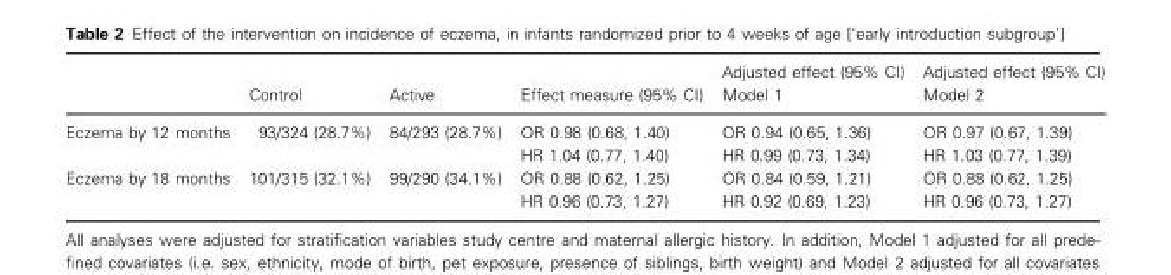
<table><thead><tr><td></td><td>Control</td><td>Active</td><td>Effect measure (95% CI)</td><td>Adjusted effect (95% CI) Model 1</td><td>Adjusted effect (95% CI) Model 2</td></tr></thead><tbody><tr><td>Eczema by 12 months</td><td>93/324 (28.7%)</td><td>84/293 (28.7%)</td><td>OR 0.98 (0.68, 1.40) HR 1.04 (0.77, 1.40)</td><td>OR 0.94 (0.65, 1.36) HR 0.99 (0.73, 1.34)</td><td>OR 0.97 (0.67, 1.39) HR 1.03 (0.77, 1.39)</td></tr><tr><td>Eczema by 18 months</td><td>101/315 (32.1%)</td><td>99/290 (34.1%)</td><td>OR 0.88 (0.62, 1.25) HR 0.96 (0.73, 1.27)</td><td>OR 0.84 (0.59, 1.21) HR 0.92 (0.69, 1.23)</td><td>OR 0.88 (0.62, 1.25) HR 0.96 (0.73, 1.27)</td></tr></tbody></table>